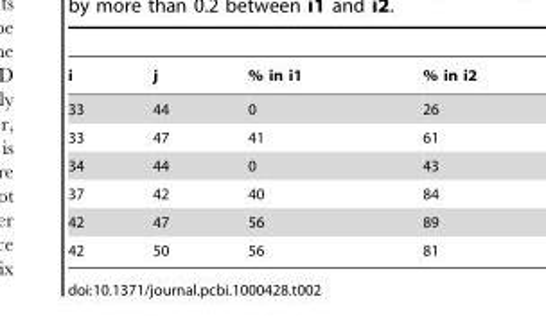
<table><thead><tr><td>i</td><td>j</td><td>% in i1</td><td>% in i2</td></tr></thead><tbody><tr><td>33</td><td>44</td><td>0</td><td>26</td></tr><tr><td>33</td><td>47</td><td>41</td><td>61</td></tr><tr><td>34</td><td>44</td><td>0</td><td>43</td></tr><tr><td>37</td><td>42</td><td>40</td><td>84</td></tr><tr><td>42</td><td>47</td><td>56</td><td>89</td></tr><tr><td>42</td><td>50</td><td>56</td><td>81</td></tr></tbody></table>